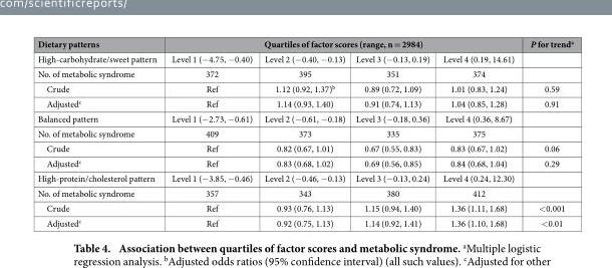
<table><thead><tr><td rowspan="2">Dietary patterns High-carbohydrate/sweet pattern</td><td colspan="4">Quartiles of factor scores (range, n = 2984)</td><td rowspan="2">P for trend<sup>a</sup></td></tr><tr><td>Level 1 (− 4.75, − 0.40)</td><td>Level 2 (− 0.40, − 0.13)</td><td>Level 3 (− 0.13, 0.19)</td><td>Level 4 (0.19, 14.61)</td></tr></thead><tbody><tr><td>No. of metabolic syndrome</td><td>372</td><td>395</td><td>351</td><td>374</td><td></td></tr><tr><td>Crude</td><td>Ref</td><td>1.12 (0.92, 1.37)<sup>b</sup></td><td>0.89 (0.72, 1.09)</td><td>1.01 (0.83, 1.24)</td><td>0.59</td></tr><tr><td>Adjusted<sup>c</sup></td><td>Ref</td><td>1.14 (0.93, 1.40)</td><td>0.91 (0.74, 1.13)</td><td>1.04 (0.85, 1.28)</td><td>0.91</td></tr><tr><td>Balanced pattern</td><td>Level 1 (− 2.73, − 0.61)</td><td>Level 2 (− 0.61, − 0.18)</td><td>Level 3 (− 0.18, 0.36)</td><td>Level 4 (0.36, 8.67)</td><td></td></tr><tr><td>No. of metabolic syndrome</td><td>409</td><td>373</td><td>335</td><td>375</td><td></td></tr><tr><td>Crude</td><td>Ref</td><td>0.82 (0.67, 1.01)</td><td>0.67 (0.55, 0.83)</td><td>0.83 (0.67, 1.02)</td><td>0.06</td></tr><tr><td>Adjusted<sup>c</sup></td><td>Ref</td><td>0.83 (0.68, 1.02)</td><td>0.69 (0.56, 0.85)</td><td>0.84 (0.68, 1.04)</td><td>0.29</td></tr><tr><td>High-protein/cholesterol pattern</td><td>Level 1 (− 3.85, − 0.46)</td><td>Level 2 (− 0.46, − 0.13)</td><td>Level 3 (− 0.13, 0.24)</td><td>Level 4 (0.24, 12.30)</td><td></td></tr><tr><td>No. of metabolic syndrome</td><td>357</td><td>343</td><td>380</td><td>412</td><td></td></tr><tr><td>Crude</td><td>Ref</td><td>0.93 (0.76, 1.13)</td><td>1.15 (0.94, 1.40)</td><td>1.36 (1.11, 1.68)</td><td>&lt; 0.001</td></tr><tr><td>Adjusted<sup>c</sup></td><td>Ref</td><td>0.92 (0.75, 1.13)</td><td>1.14 (0.92, 1.41)</td><td>1.36 (1.10, 1.68)</td><td>&lt; 0.01</td></tr></tbody></table>